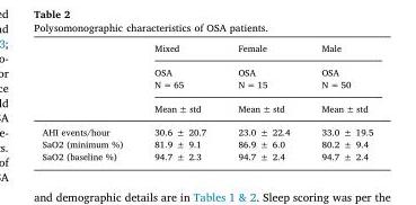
<table><thead><tr><td rowspan="3"></td><td rowspan="3">Mixed OSA N = 65 Mean ± std</td><td rowspan="3">Female OSA N = 15 Mean ± std</td><td rowspan="3">Male OSA N = 50 Mean ± std</td></tr><tr></tr><tr></tr></thead><tbody><tr><td>AHI events/hour</td><td>30.6 ± 20.7</td><td>23.0 ± 22.4</td><td>33.0 ± 19.5</td></tr><tr><td>SaO2 (minimum %)</td><td>81.9 ± 9.1</td><td>86.9 ± 6.0</td><td>80.2 ± 9.4</td></tr><tr><td>SaO2 (baseline %)</td><td>94.7 ± 2.3</td><td>94.7 ± 2.4</td><td>94.7 ± 2.4</td></tr></tbody></table>